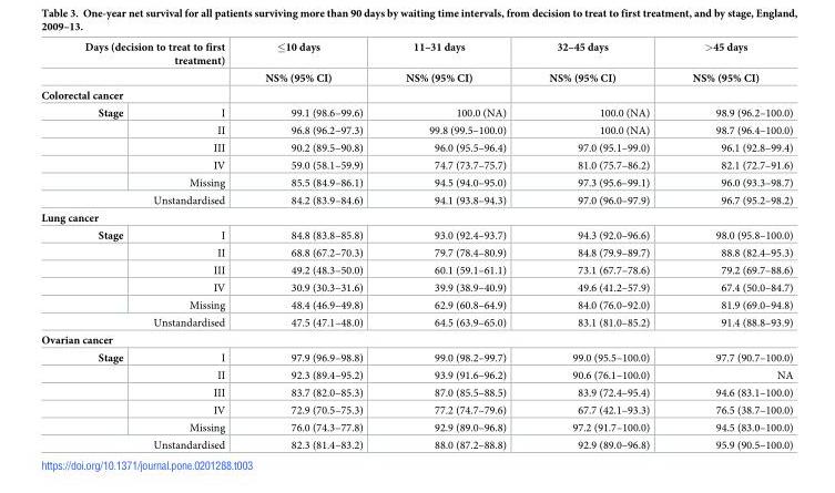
<table><thead><tr><td colspan="2">Days (decision to treat to first treatment)</td><td rowspan="2">≤10 days NS% (95% CI)</td><td rowspan="2">11–31 days NS% (95% CI)</td><td rowspan="2">32–45 days NS% (95% CI)</td><td rowspan="2">&gt;45 days NS% (95% CI)</td></tr><tr><td></td><td></td></tr></thead><tbody><tr><td colspan="6">Colorectal cancer</td></tr><tr><td rowspan="5">Stage</td><td>I</td><td>99.1 (98.6–99.6)</td><td>100.0 (NA)</td><td>100.0 (NA)</td><td>98.9 (96.2–100.0)</td></tr><tr><td>II</td><td>96.8 (96.2–97.3)</td><td>99.8 (99.5–100.0)</td><td>100.0 (NA)</td><td>98.7 (96.4–100.0)</td></tr><tr><td>III</td><td>90.2 (89.5–90.8)</td><td>96.0 (95.5–96.4)</td><td>97.0 (95.1–99.0)</td><td>96.1 (92.8–99.4)</td></tr><tr><td>IV</td><td>59.0 (58.1–59.9)</td><td>74.7 (73.7–75.7)</td><td>81.0 (75.7–86.2)</td><td>82.1 (72.7–91.6)</td></tr><tr><td>Missing</td><td>85.5 (84.9–86.1)</td><td>94.5 (94.0–95.0)</td><td>97.3 (95.6–99.1)</td><td>96.0 (93.3–98.7)</td></tr><tr><td colspan="2">Unstandardised</td><td>84.2 (83.9–84.6)</td><td>94.1 (93.8–94.3)</td><td>97.0 (96.0–97.9)</td><td>96.7 (95.2–98.2)</td></tr><tr><td colspan="6">Lung cancer</td></tr><tr><td rowspan="5">Stage</td><td>I</td><td>84.8 (83.8–85.8)</td><td>93.0 (92.4–93.7)</td><td>94.3 (92.0–96.6)</td><td>98.0 (95.8–100.0)</td></tr><tr><td>II</td><td>68.8 (67.2–70.3)</td><td>79.7 (78.4–80.9)</td><td>84.8 (79.9–89.7)</td><td>88.8 (82.4–95.3)</td></tr><tr><td>III</td><td>49.2 (48.3–50.0)</td><td>60.1 (59.1–61.1)</td><td>73.1 (67.7–78.6)</td><td>79.2 (69.7–88.6)</td></tr><tr><td>IV</td><td>30.9 (30.3–31.6)</td><td>39.9 (38.9–40.9)</td><td>49.6 (41.2–57.9)</td><td>67.4 (50.0–84.7)</td></tr><tr><td>Missing</td><td>48.4 (46.9–49.8)</td><td>62.9 (60.8–64.9)</td><td>84.0 (76.0–92.0)</td><td>81.9 (69.0–94.8)</td></tr><tr><td colspan="2">Unstandardised</td><td>47.5 (47.1–48.0)</td><td>64.5 (63.9–65.0)</td><td>83.1 (81.0–85.2)</td><td>91.4 (88.8–93.9)</td></tr><tr><td colspan="6">Ovarian cancer</td></tr><tr><td rowspan="5">Stage</td><td>I</td><td>97.9 (96.9–98.8)</td><td>99.0 (98.2–99.7)</td><td>99.0 (95.5–100.0)</td><td>97.7 (90.7–100.0)</td></tr><tr><td>II</td><td>92.3 (89.4–95.2)</td><td>93.9 (91.6–96.2)</td><td>90.6 (76.1–100.0)</td><td>NA</td></tr><tr><td>III</td><td>83.7 (82.0–85.3)</td><td>87.0 (85.5–88.5)</td><td>83.9 (72.4–95.4)</td><td>94.6 (83.1–100.0)</td></tr><tr><td>IV</td><td>72.9 (70.5–75.3)</td><td>77.2 (74.7–79.6)</td><td>67.7 (42.1–93.3)</td><td>76.5 (38.7–100.0)</td></tr><tr><td>Missing</td><td>76.0 (74.3–77.8)</td><td>92.9 (89.0–96.8)</td><td>97.2 (91.7–100.0)</td><td>94.5 (83.0–100.0)</td></tr><tr><td colspan="2">Unstandardised</td><td>82.3 (81.4–83.2)</td><td>88.0 (87.2–88.8)</td><td>92.9 (89.0–96.8)</td><td>95.9 (90.5–100.0)</td></tr></tbody></table>